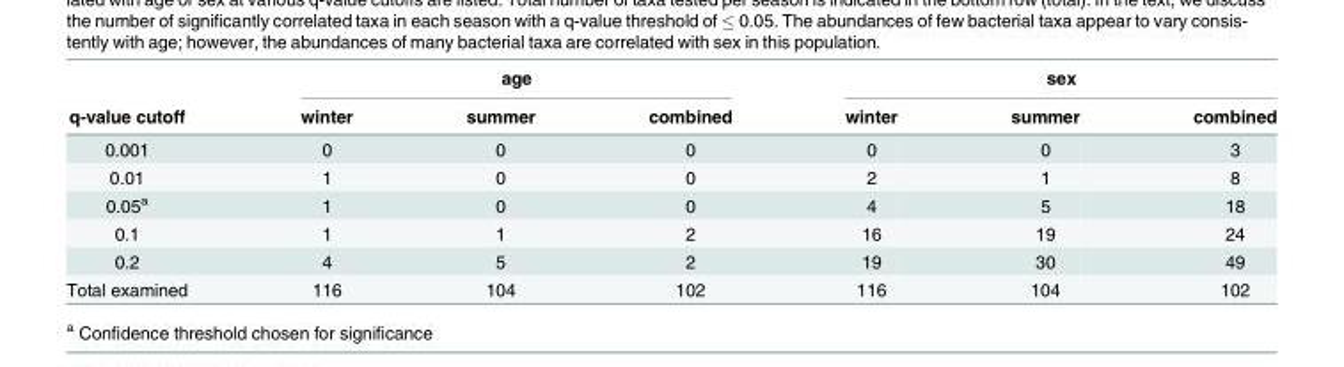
<table><thead><tr><td rowspan="2">q-value cutoff</td><td colspan="3">age</td><td colspan="3">sex</td></tr><tr><td>winter</td><td>summer</td><td>combined</td><td>winter</td><td>summer</td><td>combined</td></tr></thead><tbody><tr><td>0.001</td><td>0</td><td>0</td><td>0</td><td>0</td><td>0</td><td>3</td></tr><tr><td>0.01</td><td>1</td><td>0</td><td>0</td><td>2</td><td>1</td><td>8</td></tr><tr><td>0.05<sup>a</sup></td><td>1</td><td>0</td><td>0</td><td>4</td><td>5</td><td>18</td></tr><tr><td>0.1</td><td>1</td><td>1</td><td>2</td><td>16</td><td>19</td><td>24</td></tr><tr><td>0.2</td><td>4</td><td>5</td><td>2</td><td>19</td><td>30</td><td>49</td></tr><tr><td>Total examined</td><td>116</td><td>104</td><td>102</td><td>116</td><td>104</td><td>102</td></tr></tbody></table>